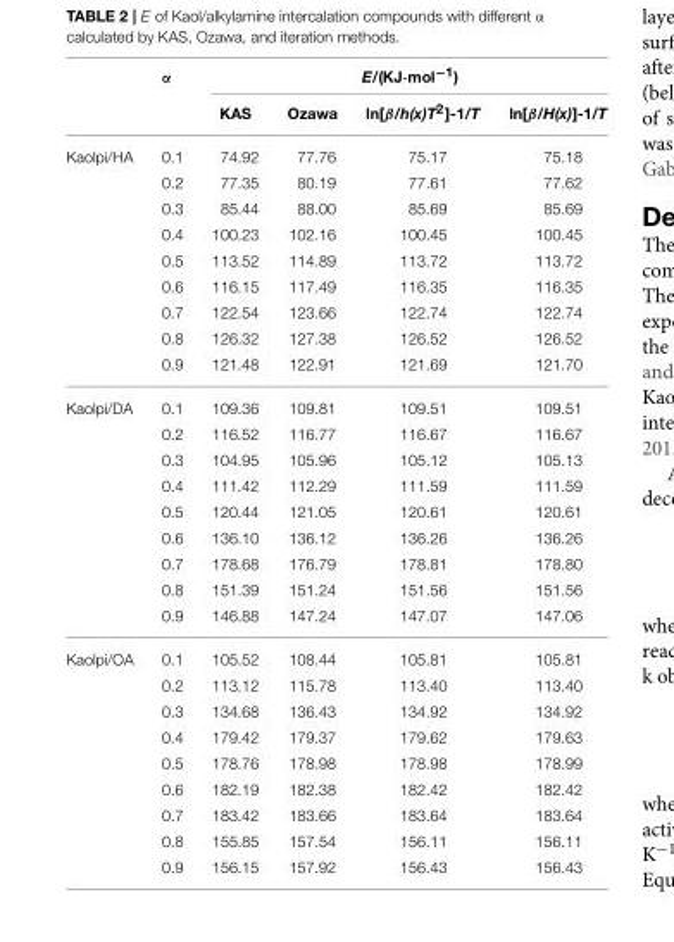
<table><thead><tr><td rowspan="2"></td><td rowspan="2">α</td><td colspan="4">E/(KJ·mol<sup>−1</sup>)</td></tr><tr><td>KAS</td><td>Ozawa</td><td>ln[β/h(x)T<sup>2</sup>]-1/T</td><td>ln[β/H(x)]-1/T</td></tr></thead><tbody><tr><td rowspan="9">Kaolpi/HA</td><td>0.1</td><td>74.92</td><td>77.76</td><td>75.17</td><td>75.18</td></tr><tr><td>0.2</td><td>77.35</td><td>80.19</td><td>77.61</td><td>77.62</td></tr><tr><td>0.3</td><td>85.44</td><td>88.00</td><td>85.69</td><td>85.69</td></tr><tr><td>0.4</td><td>100.23</td><td>102.16</td><td>100.45</td><td>100.45</td></tr><tr><td>0.5</td><td>113.52</td><td>114.89</td><td>113.72</td><td>113.72</td></tr><tr><td>0.6</td><td>116.15</td><td>117.49</td><td>116.35</td><td>116.35</td></tr><tr><td>0.7</td><td>122.54</td><td>123.66</td><td>122.74</td><td>122.74</td></tr><tr><td>0.8</td><td>126.32</td><td>127.38</td><td>126.52</td><td>126.52</td></tr><tr><td>0.9</td><td>121.48</td><td>122.91</td><td>121.69</td><td>121.70</td></tr><tr><td rowspan="9">Kaolpi/DA</td><td>0.1</td><td>109.36</td><td>109.81</td><td>109.51</td><td>109.51</td></tr><tr><td>0.2</td><td>116.52</td><td>116.77</td><td>116.67</td><td>116.67</td></tr><tr><td>0.3</td><td>104.95</td><td>105.96</td><td>105.12</td><td>105.13</td></tr><tr><td>0.4</td><td>111.42</td><td>112.29</td><td>111.59</td><td>111.59</td></tr><tr><td>0.5</td><td>120.44</td><td>121.05</td><td>120.61</td><td>120.61</td></tr><tr><td>0.6</td><td>136.10</td><td>136.12</td><td>136.26</td><td>136.26</td></tr><tr><td>0.7</td><td>178.68</td><td>176.79</td><td>178.81</td><td>178.80</td></tr><tr><td>0.8</td><td>151.39</td><td>151.24</td><td>151.56</td><td>151.56</td></tr><tr><td>0.9</td><td>146.88</td><td>147.24</td><td>147.07</td><td>147.06</td></tr><tr><td rowspan="9">Kaolpi/OA</td><td>0.1</td><td>105.52</td><td>108.44</td><td>105.81</td><td>105.81</td></tr><tr><td>0.2</td><td>113.12</td><td>115.78</td><td>113.40</td><td>113.40</td></tr><tr><td>0.3</td><td>134.68</td><td>136.43</td><td>134.92</td><td>134.92</td></tr><tr><td>0.4</td><td>179.42</td><td>179.37</td><td>179.62</td><td>179.63</td></tr><tr><td>0.5</td><td>178.76</td><td>178.98</td><td>178.98</td><td>178.99</td></tr><tr><td>0.6</td><td>182.19</td><td>182.38</td><td>182.42</td><td>182.42</td></tr><tr><td>0.7</td><td>183.42</td><td>183.66</td><td>183.64</td><td>183.64</td></tr><tr><td>0.8</td><td>155.85</td><td>157.54</td><td>156.11</td><td>156.11</td></tr><tr><td>0.9</td><td>156.15</td><td>157.92</td><td>156.43</td><td>156.43</td></tr></tbody></table>